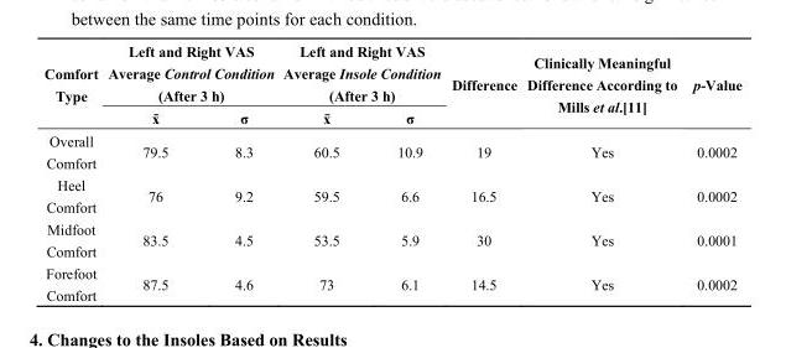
<table><thead><tr><td rowspan="2">Comfort Type</td><td colspan="2">Left and Right VAS Average Control Condition (After 3 h)</td><td colspan="2">Left and Right VAS Average Insole Condition (After 3 h)</td><td rowspan="2">Difference</td><td rowspan="2">Clinically Meaningful Difference According to Mills et al.[11]</td><td rowspan="2">p-Value</td></tr><tr><td>x̄</td><td>σ</td><td>x̄</td><td>σ</td></tr></thead><tbody><tr><td>Overall Comfort</td><td>79.5</td><td>8.3</td><td>60.5</td><td>10.9</td><td>19</td><td>Yes</td><td>0.0002</td></tr><tr><td>Heel Comfort</td><td>76</td><td>9.2</td><td>59.5</td><td>6.6</td><td>16.5</td><td>Yes</td><td>0.0002</td></tr><tr><td>Midfoot Comfort</td><td>83.5</td><td>4.5</td><td>53.5</td><td>5.9</td><td>30</td><td>Yes</td><td>0.0001</td></tr><tr><td>Forefoot Comfort</td><td>87.5</td><td>4.6</td><td>73</td><td>6.1</td><td>14.5</td><td>Yes</td><td>0.0002</td></tr></tbody></table>